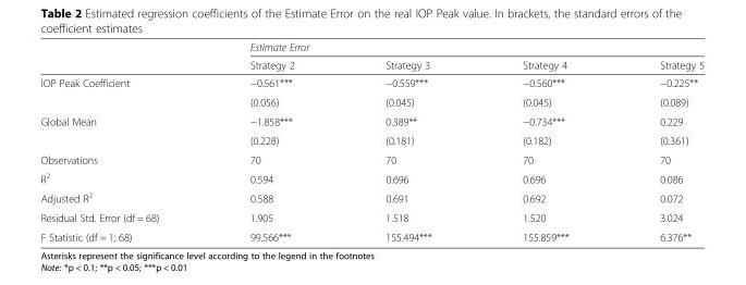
<table><thead><tr><td rowspan="2"></td><td colspan="4">Estimate Error</td></tr><tr><td>Strategy 2</td><td>Strategy 3</td><td>Strategy 4</td><td>Strategy 5</td></tr></thead><tbody><tr><td rowspan="2">IOP Peak Coefficient</td><td>−0.561***</td><td>−0.559***</td><td>−0.560***</td><td>−0.225**</td></tr><tr><td>(0.056)</td><td>(0.045)</td><td>(0.045)</td><td>(0.089)</td></tr><tr><td rowspan="2">Global Mean</td><td>−1.858***</td><td>0.389**</td><td>−0.734***</td><td>0.229</td></tr><tr><td>(0.228)</td><td>(0.181)</td><td>(0.182)</td><td>(0.361)</td></tr><tr><td>Observations</td><td>70</td><td>70</td><td>70</td><td>70</td></tr><tr><td>R<sup>2</sup></td><td>0.594</td><td>0.696</td><td>0.696</td><td>0.086</td></tr><tr><td>Adjusted R<sup>2</sup></td><td>0.588</td><td>0.691</td><td>0.692</td><td>0.072</td></tr><tr><td>Residual Std. Error (df = 68)</td><td>1.905</td><td>1.518</td><td>1.520</td><td>3.024</td></tr><tr><td>F Statistic (df = 1; 68)</td><td>99.566***</td><td>155.494***</td><td>155.859***</td><td>6.376**</td></tr></tbody></table>